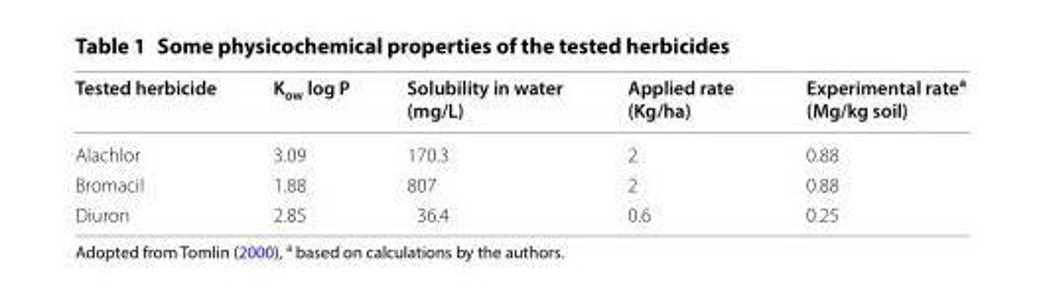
<table><thead><tr><td>Tested herbicide</td><td>K<sub>ow</sub> log P</td><td>Solubility in water (mg/L)</td><td>Applied rate (Kg/ha)</td><td>Experimental rate<sup>a</sup> (Mg/kg soil)</td></tr></thead><tbody><tr><td>Alachlor</td><td>3.09</td><td>170.3</td><td>2</td><td>0.88</td></tr><tr><td>Bromacil</td><td>1.88</td><td>807</td><td>2</td><td>0.88</td></tr><tr><td>Diuron</td><td>2.85</td><td>36.4</td><td>0.6</td><td>0.25</td></tr></tbody></table>